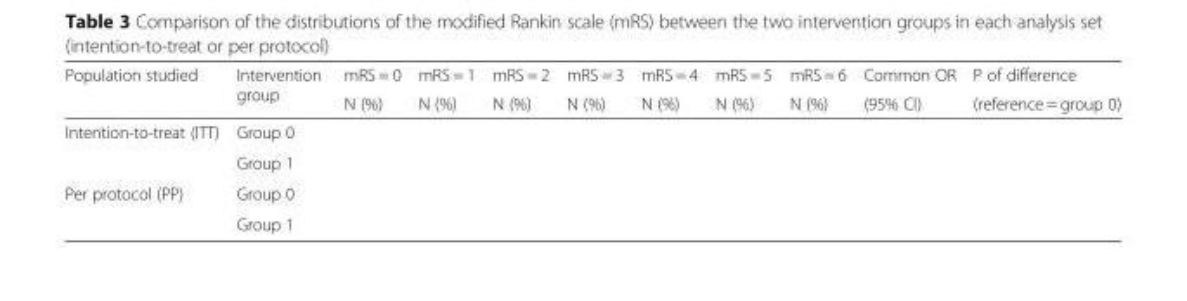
<table><thead><tr><td rowspan="2">Population studied</td><td rowspan="2">Intervention group</td><td rowspan="2">mRS = 0 N (%)</td><td rowspan="2">mRS = 1 N (%)</td><td rowspan="2">mRS = 2 N (%)</td><td rowspan="2">mRS = 3 N (%)</td><td rowspan="2">mRS = 4 N (%)</td><td rowspan="2">mRS = 5 N (%)</td><td rowspan="2">mRS = 6 N (%)</td><td rowspan="2">Common OR (95% CI)</td><td rowspan="2">P of difference (reference = group 0)</td></tr><tr></tr></thead><tbody><tr><td rowspan="2">Intention-to-treat (ITT)</td><td>Group 0</td><td></td><td></td><td></td><td></td><td></td><td></td><td></td><td rowspan="2"></td><td rowspan="2"></td></tr><tr><td>Group 1</td><td></td><td></td><td></td><td></td><td></td><td></td><td></td></tr><tr><td rowspan="2">Per protocol (PP)</td><td>Group 0</td><td></td><td></td><td></td><td></td><td></td><td></td><td></td><td rowspan="2"></td><td rowspan="2"></td></tr><tr><td>Group 1</td><td></td><td></td><td></td><td></td><td></td><td></td><td></td></tr></tbody></table>